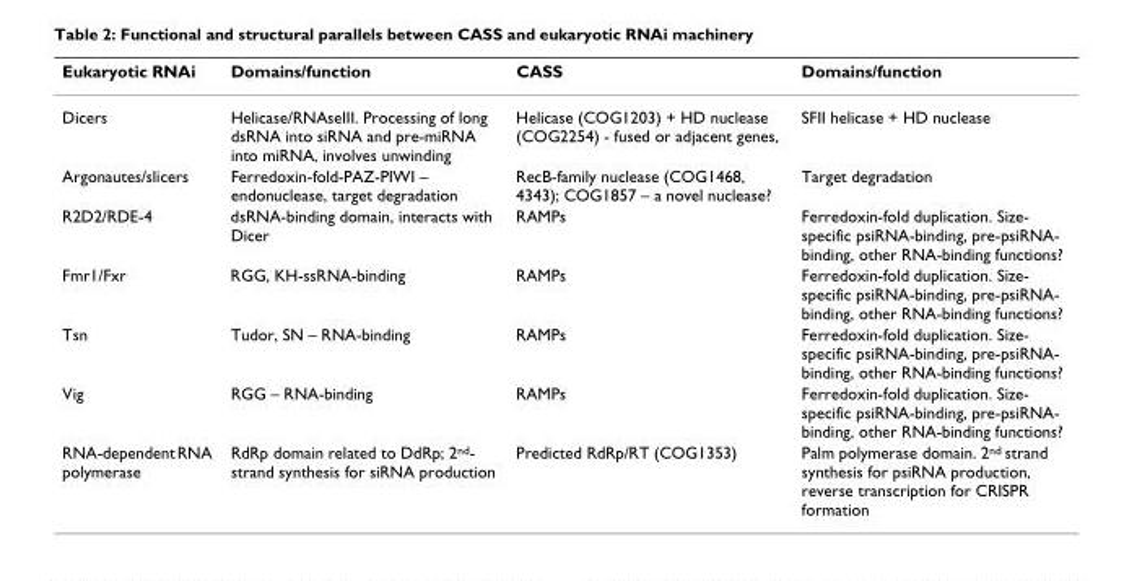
<table><thead><tr><td>Eukaryotic RNAi</td><td>Domains/function</td><td>CASS</td><td>Domains/function</td></tr></thead><tbody><tr><td>Dicers</td><td>Helicase/RNAseIII. Processing of long dsRNA into siRNA and pre-miRNA into miRNA, involves unwinding</td><td>Helicase (COG1203) + HD nuclease (COG2254) - fused or adjacent genes,</td><td>SFII helicase + HD nuclease</td></tr><tr><td>Argonautes/slicers</td><td>Ferredoxin-fold-PAZ-PIWI – endonuclease, target degradation</td><td>RecB-family nuclease (COG1468, 4343); COG1857 – a novel nuclease?</td><td>Target degradation</td></tr><tr><td>R2D2/RDE-4</td><td>dsRNA-binding domain, interacts with Dicer</td><td>RAMPs</td><td>Ferredoxin-fold duplication. Size- specific psiRNA-binding, pre-psiRNA- binding, other RNA-binding functions?</td></tr><tr><td>Fmr1/Fxr</td><td>RGG, KH-ssRNA-binding</td><td>RAMPs</td><td>Ferredoxin-fold duplication. Size- specific psiRNA-binding, pre-psiRNA- binding, other RNA-binding functions?</td></tr><tr><td>Tsn</td><td>Tudor, SN – RNA-binding</td><td>RAMPs</td><td>Ferredoxin-fold duplication. Size- specific psiRNA-binding, pre-psiRNA- binding, other RNA-binding functions?</td></tr><tr><td>Vig</td><td>RGG – RNA-binding</td><td>RAMPs</td><td>Ferredoxin-fold duplication. Size- specific psiRNA-binding, pre-psiRNA- binding, other RNA-binding functions?</td></tr><tr><td>RNA-dependent RNA polymerase</td><td>RdRp domain related to DdRp; 2<sup>nd</sup>- strand synthesis for siRNA production</td><td>Predicted RdRp/RT (COG1353)</td><td>Palm polymerase domain. 2<sup>nd</sup> strand synthesis for psiRNA production, reverse transcription for CRISPR formation</td></tr></tbody></table>